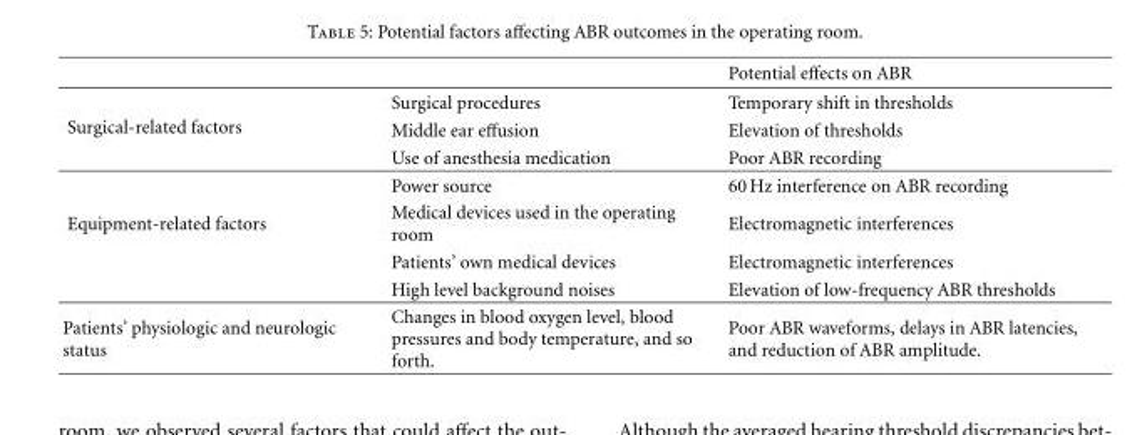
<table><thead><tr><td></td><td></td><td>Potential effects on ABR</td></tr></thead><tbody><tr><td rowspan="3">Surgical-related factors</td><td>Surgical procedures</td><td>Temporary shift in thresholds</td></tr><tr><td>Middle ear effusion</td><td>Elevation of thresholds</td></tr><tr><td>Use of anesthesia medication</td><td>Poor ABR recording</td></tr><tr><td rowspan="4">Equipment-related factors</td><td>Power source</td><td>60 Hz interference on ABR recording</td></tr><tr><td>Medical devices used in the operating room</td><td>Electromagnetic interferences</td></tr><tr><td>Patients’ own medical devices</td><td>Electromagnetic interferences</td></tr><tr><td>High level background noises</td><td>Elevation of low-frequency ABR thresholds</td></tr><tr><td>Patients’ physiologic and neurologic status</td><td>Changes in blood oxygen level, blood pressures and body temperature, and so forth.</td><td>Poor ABR waveforms, delays in ABR latencies, and reduction of ABR amplitude.</td></tr></tbody></table>